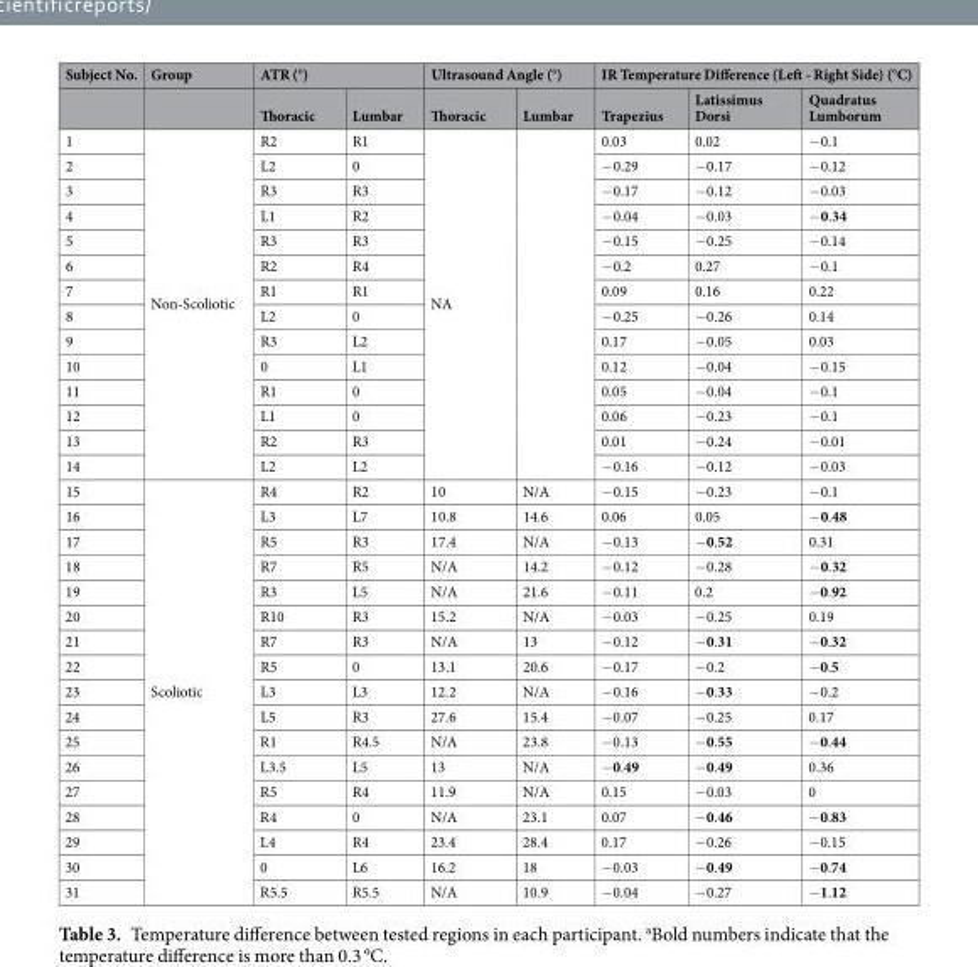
<table><thead><tr><td rowspan="2">Subject No.</td><td rowspan="2">Group</td><td colspan="2">ATR (°)</td><td colspan="2">Ultrasound Angle (°)</td><td colspan="3">IR Temperature Difference (Left - Right Side) (°C)</td></tr><tr><td>Thoracic</td><td>Lumbar</td><td>Thoracic</td><td>Lumbar</td><td>Trapezius</td><td>Latissimus Dorsi</td><td>Quadratus Lumborum</td></tr></thead><tbody><tr><td>1</td><td rowspan="14">Non-Scoliotic</td><td>R2</td><td>R1</td><td rowspan="14">NA</td><td rowspan="14"></td><td>0.03</td><td>0.02</td><td>−0.1</td></tr><tr><td>2</td><td>L2</td><td>0</td><td>−0.29</td><td>−0.17</td><td>−0.12</td></tr><tr><td>3</td><td>R3</td><td>R3</td><td>−0.17</td><td>−0.12</td><td>−0.03</td></tr><tr><td>4</td><td>L1</td><td>R2</td><td>−0.04</td><td>−0.03</td><td>−0.34</td></tr><tr><td>5</td><td>R3</td><td>R3</td><td>−0.15</td><td>−0.25</td><td>−0.14</td></tr><tr><td>6</td><td>R2</td><td>R4</td><td>−0.2</td><td>0.27</td><td>−0.1</td></tr><tr><td>7</td><td>R1</td><td>R1</td><td>0.09</td><td>0.16</td><td>0.22</td></tr><tr><td>8</td><td>L2</td><td>0</td><td>−0.25</td><td>−0.26</td><td>0.14</td></tr><tr><td>9</td><td>R3</td><td>L2</td><td>0.17</td><td>−0.05</td><td>0.03</td></tr><tr><td>10</td><td>0</td><td>L1</td><td>0.12</td><td>−0.04</td><td>−0.15</td></tr><tr><td>11</td><td>R1</td><td>0</td><td>0.05</td><td>−0.04</td><td>−0.1</td></tr><tr><td>12</td><td>L1</td><td>0</td><td>0.06</td><td>−0.23</td><td>−0.1</td></tr><tr><td>13</td><td>R2</td><td>R3</td><td>0.01</td><td>−0.24</td><td>−0.01</td></tr><tr><td>14</td><td>L2</td><td>L2</td><td>−0.16</td><td>−0.12</td><td>−0.03</td></tr><tr><td>15</td><td rowspan="17">Scoliotic</td><td>R4</td><td>R2</td><td>10</td><td>N/A</td><td>−0.15</td><td>−0.23</td><td>−0.1</td></tr><tr><td>16</td><td>L3</td><td>L7</td><td>10.8</td><td>14.6</td><td>0.06</td><td>0.05</td><td>−0.48</td></tr><tr><td>17</td><td>R5</td><td>R3</td><td>17.4</td><td>N/A</td><td>−0.13</td><td>−0.52</td><td>0.31</td></tr><tr><td>18</td><td>R7</td><td>R5</td><td>N/A</td><td>14.2</td><td>−0.12</td><td>−0.28</td><td>−0.32</td></tr><tr><td>19</td><td>R3</td><td>L5</td><td>N/A</td><td>21.6</td><td>−0.11</td><td>0.2</td><td>−0.92</td></tr><tr><td>20</td><td>R10</td><td>R3</td><td>15.2</td><td>N/A</td><td>−0.03</td><td>−0.25</td><td>0.19</td></tr><tr><td>21</td><td>R7</td><td>R3</td><td>N/A</td><td>13</td><td>−0.12</td><td>−0.31</td><td>−0.32</td></tr><tr><td>22</td><td>R5</td><td>0</td><td>13.1</td><td>20.6</td><td>−0.17</td><td>−0.2</td><td>−0.5</td></tr><tr><td>23</td><td>L3</td><td>L3</td><td>12.2</td><td>N/A</td><td>−0.16</td><td>−0.33</td><td>−0.2</td></tr><tr><td>24</td><td>L5</td><td>R3</td><td>27.6</td><td>15.4</td><td>−0.07</td><td>−0.25</td><td>0.17</td></tr><tr><td>25</td><td>R1</td><td>R4.5</td><td>N/A</td><td>23.8</td><td>−0.13</td><td>−0.55</td><td>−0.44</td></tr><tr><td>26</td><td>L3.5</td><td>L5</td><td>13</td><td>N/A</td><td>−0.49</td><td>−0.49</td><td>0.36</td></tr><tr><td>27</td><td>R5</td><td>R4</td><td>11.9</td><td>N/A</td><td>0.15</td><td>−0.03</td><td>0</td></tr><tr><td>28</td><td>R4</td><td>0</td><td>N/A</td><td>23.1</td><td>0.07</td><td>−0.46</td><td>−0.83</td></tr><tr><td>29</td><td>L4</td><td>R4</td><td>23.4</td><td>28.4</td><td>0.17</td><td>−0.26</td><td>−0.15</td></tr><tr><td>30</td><td>0</td><td>L6</td><td>16.2</td><td>18</td><td>−0.03</td><td>−0.49</td><td>−0.74</td></tr><tr><td>31</td><td>R5.5</td><td>R5.5</td><td>N/A</td><td>10.9</td><td>−0.04</td><td>−0.27</td><td>−1.12</td></tr></tbody></table>